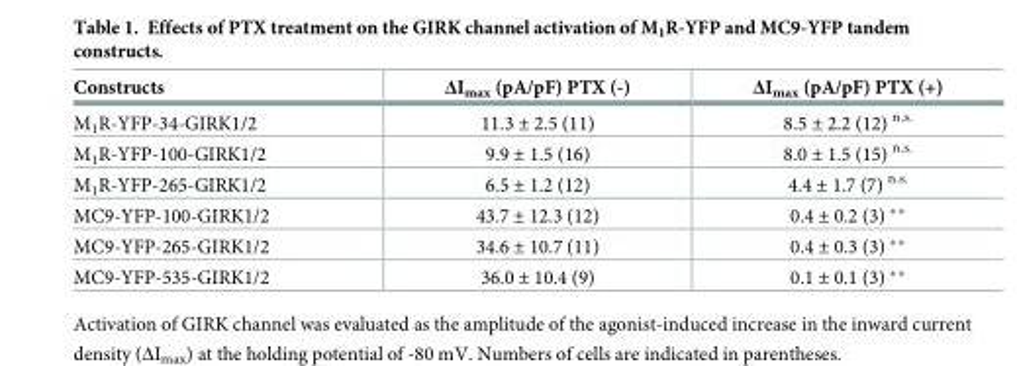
<table><thead><tr><td>Constructs</td><td>ΔI<sub>max</sub> (pA/pF) PTX (-)</td><td>ΔI<sub>max</sub> (pA/pF) PTX (+)</td></tr></thead><tbody><tr><td>M<sub>1</sub>R-YFP-34-GIRK1/2</td><td>11.3 ± 2.5 (11)</td><td>8.5 ± 2.2 (12) <sup>n.s.</sup></td></tr><tr><td>M<sub>1</sub>R-YFP-100-GIRK1/2</td><td>9.9 ± 1.5 (16)</td><td>8.0 ± 1.5 (15) <sup>n.s.</sup></td></tr><tr><td>M<sub>1</sub>R-YFP-265-GIRK1/2</td><td>6.5 ± 1.2 (12)</td><td>4.4 ± 1.7 (7) <sup>n.s.</sup></td></tr><tr><td>MC9-YFP-100-GIRK1/2</td><td>43.7 ± 12.3 (12)</td><td>0.4 ± 0.2 (3) **</td></tr><tr><td>MC9-YFP-265-GIRK1/2</td><td>34.6 ± 10.7 (11)</td><td>0.4 ± 0.3 (3) **</td></tr><tr><td>MC9-YFP-535-GIRK1/2</td><td>36.0 ± 10.4 (9)</td><td>0.1 ± 0.1 (3) **</td></tr></tbody></table>